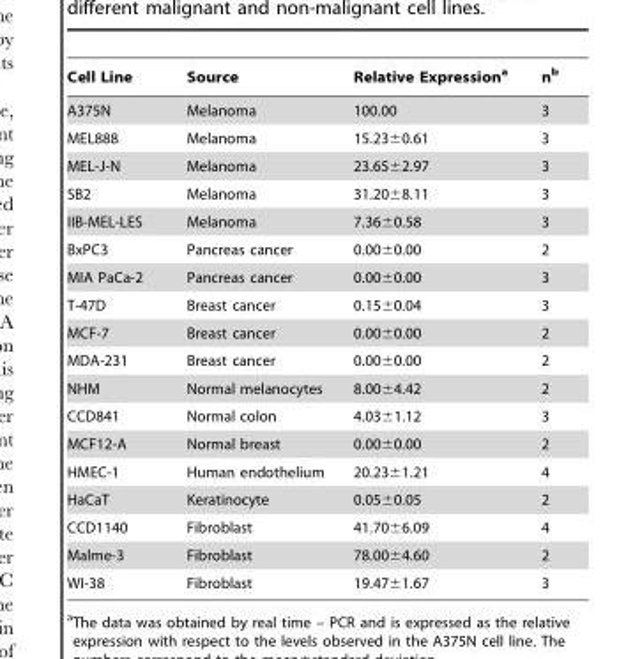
<table><thead><tr><td>Cell Line</td><td>Source</td><td>Relative Expression<sup>a</sup></td><td>n<sup>b</sup></td></tr></thead><tbody><tr><td>A375N</td><td>Melanoma</td><td>100.00</td><td>3</td></tr><tr><td>MEL888</td><td>Melanoma</td><td>15.23±0.61</td><td>3</td></tr><tr><td>MEL-J-N</td><td>Melanoma</td><td>23.65±2.97</td><td>3</td></tr><tr><td>SB2</td><td>Melanoma</td><td>31.20±8.11</td><td>3</td></tr><tr><td>IIB-MEL-LES</td><td>Melanoma</td><td>7.36±0.58</td><td>3</td></tr><tr><td>BxPC3</td><td>Pancreas cancer</td><td>0.00±0.00</td><td>2</td></tr><tr><td>MIA PaCa-2</td><td>Pancreas cancer</td><td>0.00±0.00</td><td>3</td></tr><tr><td>T-47D</td><td>Breast cancer</td><td>0.15±0.04</td><td>3</td></tr><tr><td>MCF-7</td><td>Breast cancer</td><td>0.00±0.00</td><td>2</td></tr><tr><td>MDA-231</td><td>Breast cancer</td><td>0.00±0.00</td><td>2</td></tr><tr><td>NHM</td><td>Normal melanocytes</td><td>8.00±4.42</td><td>2</td></tr><tr><td>CCD841</td><td>Normal colon</td><td>4.03±1.12</td><td>3</td></tr><tr><td>MCF12-A</td><td>Normal breast</td><td>0.00±0.00</td><td>2</td></tr><tr><td>HMEC-1</td><td>Human endothelium</td><td>20.23±1.21</td><td>4</td></tr><tr><td>HaCaT</td><td>Keratinocyte</td><td>0.05±0.05</td><td>2</td></tr><tr><td>CCD1140</td><td>Fibroblast</td><td>41.70±6.09</td><td>4</td></tr><tr><td>Malme-3</td><td>Fibroblast</td><td>78.00±4.60</td><td>2</td></tr><tr><td>WI-38</td><td>Fibroblast</td><td>19.47±1.67</td><td>3</td></tr></tbody></table>